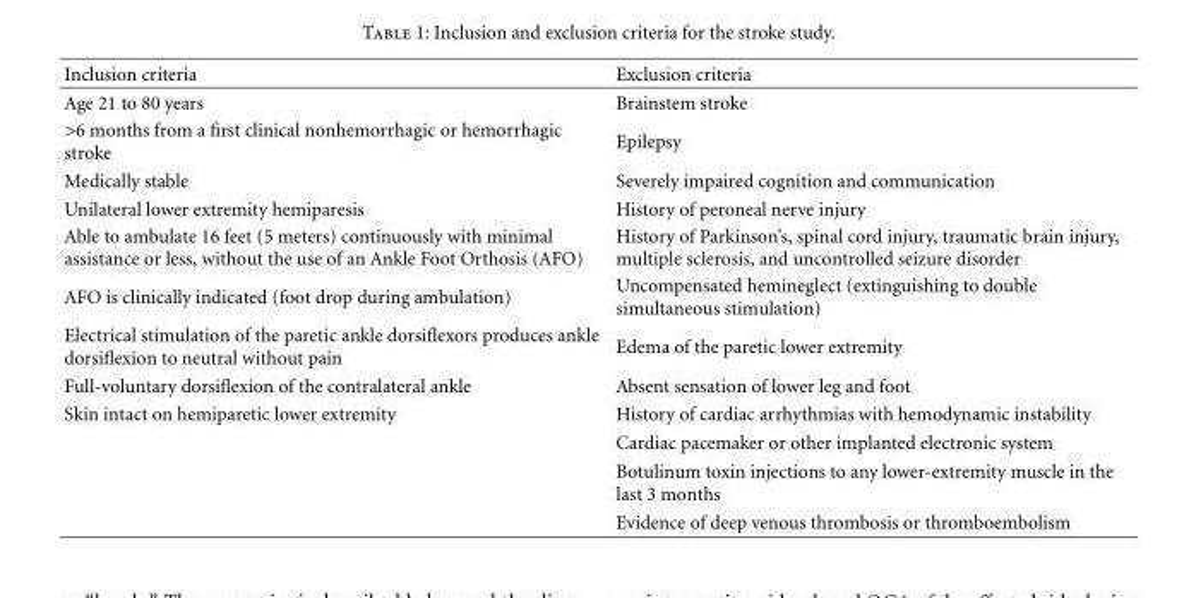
<table><thead><tr><td>Inclusion criteria</td><td>Exclusion criteria</td></tr></thead><tbody><tr><td>Age 21 to 80 years</td><td>Brainstem stroke</td></tr><tr><td>&gt;6 months from a first clinical nonhemorrhagic or hemorrhagic stroke</td><td>Epilepsy</td></tr><tr><td>Medically stable</td><td>Severely impaired cognition and communication</td></tr><tr><td>Unilateral lower extremity hemiparesis</td><td>History of peroneal nerve injury</td></tr><tr><td>Able to ambulate 16 feet (5 meters) continuously with minimal assistance or less, without the use of an Ankle Foot Orthosis (AFO)</td><td>History of Parkinson’s, spinal cord injury, traumatic brain injury, multiple sclerosis, and uncontrolled seizure disorder</td></tr><tr><td>AFO is clinically indicated (foot drop during ambulation)</td><td>Uncompensated hemineglect (extinguishing to double simultaneous stimulation)</td></tr><tr><td>Electrical stimulation of the paretic ankle dorsiflexors produces ankle dorsiflexion to neutral without pain</td><td>Edema of the paretic lower extremity</td></tr><tr><td>Full-voluntary dorsiflexion of the contralateral ankle</td><td>Absent sensation of lower leg and foot</td></tr><tr><td rowspan="4">Skin intact on hemiparetic lower extremity</td><td>History of cardiac arrhythmias with hemodynamic instability</td></tr><tr><td>Cardiac pacemaker or other implanted electronic system</td></tr><tr><td>Botulinum toxin injections to any lower-extremity muscle in the last 3 months</td></tr><tr><td>Evidence of deep venous thrombosis or thromboembolism</td></tr></tbody></table>